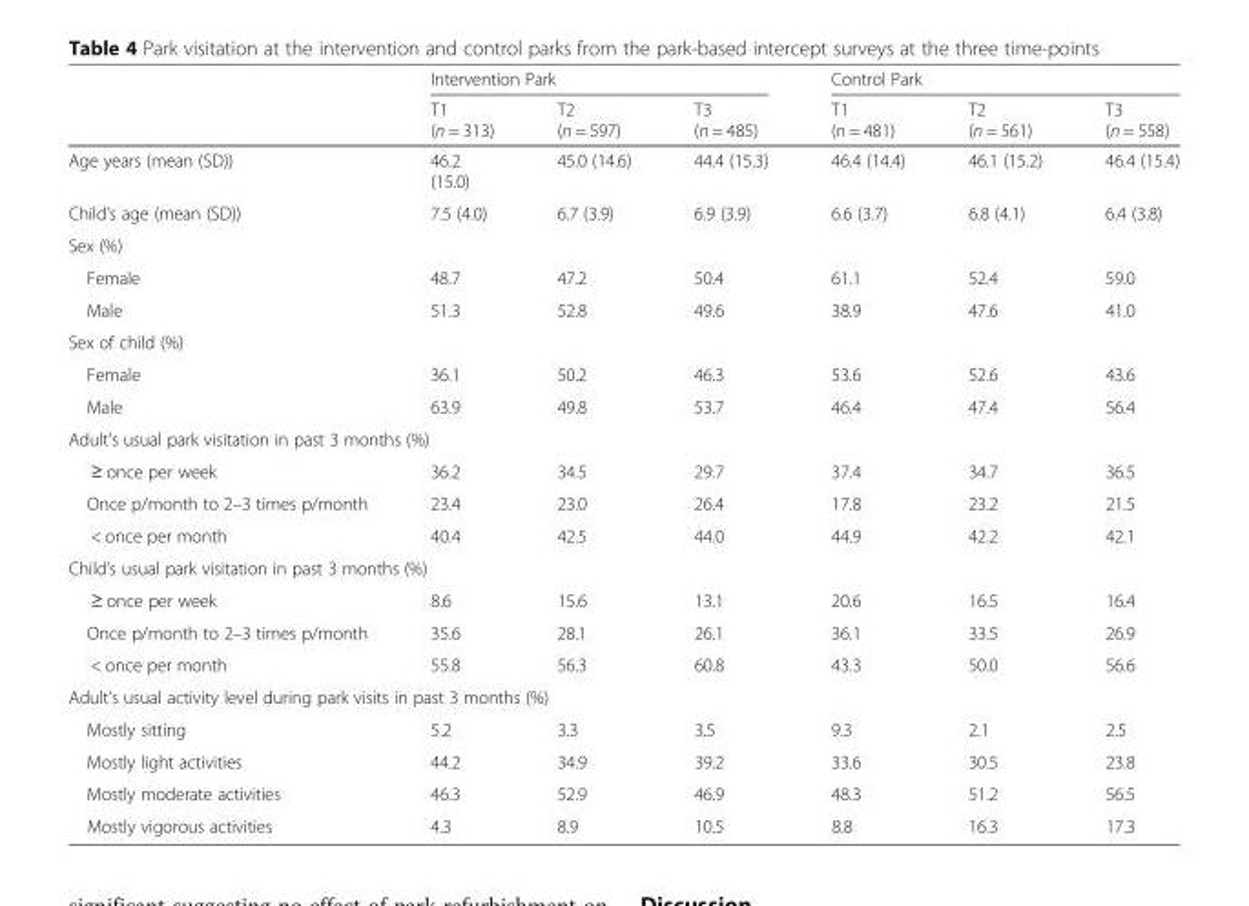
<table><thead><tr><td rowspan="2"></td><td colspan="3">Intervention Park</td><td colspan="3">Control Park</td></tr><tr><td>T1 (n = 313)</td><td>T2 (n = 597)</td><td>T3 (n = 485)</td><td>T1 (n = 481)</td><td>T2 (n = 561)</td><td>T3 (n = 558)</td></tr></thead><tbody><tr><td>Age years (mean (SD))</td><td>46.2 (15.0)</td><td>45.0 (14.6)</td><td>44.4 (15.3)</td><td>46.4 (14.4)</td><td>46.1 (15.2)</td><td>46.4 (15.4)</td></tr><tr><td>Child’s age (mean (SD))</td><td>7.5 (4.0)</td><td>6.7 (3.9)</td><td>6.9 (3.9)</td><td>6.6 (3.7)</td><td>6.8 (4.1)</td><td>6.4 (3.8)</td></tr><tr><td colspan="7">Sex (%)</td></tr><tr><td>Female</td><td>48.7</td><td>47.2</td><td>50.4</td><td>61.1</td><td>52.4</td><td>59.0</td></tr><tr><td>Male</td><td>51.3</td><td>52.8</td><td>49.6</td><td>38.9</td><td>47.6</td><td>41.0</td></tr><tr><td colspan="7">Sex of child (%)</td></tr><tr><td>Female</td><td>36.1</td><td>50.2</td><td>46.3</td><td>53.6</td><td>52.6</td><td>43.6</td></tr><tr><td>Male</td><td>63.9</td><td>49.8</td><td>53.7</td><td>46.4</td><td>47.4</td><td>56.4</td></tr><tr><td colspan="7">Adult’s usual park visitation in past 3 months (%)</td></tr><tr><td>≥ once per week</td><td>36.2</td><td>34.5</td><td>29.7</td><td>37.4</td><td>34.7</td><td>36.5</td></tr><tr><td>Once p/month to 2–3 times p/month</td><td>23.4</td><td>23.0</td><td>26.4</td><td>17.8</td><td>23.2</td><td>21.5</td></tr><tr><td>&lt; once per month</td><td>40.4</td><td>42.5</td><td>44.0</td><td>44.9</td><td>42.2</td><td>42.1</td></tr><tr><td colspan="7">Child’s usual park visitation in past 3 months (%)</td></tr><tr><td>≥ once per week</td><td>8.6</td><td>15.6</td><td>13.1</td><td>20.6</td><td>16.5</td><td>16.4</td></tr><tr><td>Once p/month to 2–3 times p/month</td><td>35.6</td><td>28.1</td><td>26.1</td><td>36.1</td><td>33.5</td><td>26.9</td></tr><tr><td>&lt; once per month</td><td>55.8</td><td>56.3</td><td>60.8</td><td>43.3</td><td>50.0</td><td>56.6</td></tr><tr><td colspan="7">Adult’s usual activity level during park visits in past 3 months (%)</td></tr><tr><td>Mostly sitting</td><td>5.2</td><td>3.3</td><td>3.5</td><td>9.3</td><td>2.1</td><td>2.5</td></tr><tr><td>Mostly light activities</td><td>44.2</td><td>34.9</td><td>39.2</td><td>33.6</td><td>30.5</td><td>23.8</td></tr><tr><td>Mostly moderate activities</td><td>46.3</td><td>52.9</td><td>46.9</td><td>48.3</td><td>51.2</td><td>56.5</td></tr><tr><td>Mostly vigorous activities</td><td>4.3</td><td>8.9</td><td>10.5</td><td>8.8</td><td>16.3</td><td>17.3</td></tr></tbody></table>